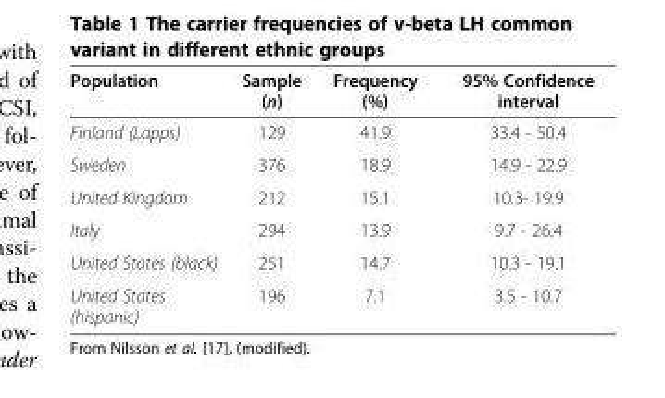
<table><thead><tr><td>Population</td><td>Sample (n)</td><td>Frequency (%)</td><td>95% Confidence interval</td></tr></thead><tbody><tr><td>Finland (Lapps)</td><td>129</td><td>41.9</td><td>33.4 - 50.4</td></tr><tr><td>Sweden</td><td>376</td><td>18.9</td><td>14.9 - 22.9</td></tr><tr><td>United Kingdom</td><td>212</td><td>15.1</td><td>10.3- 19.9</td></tr><tr><td>Italy</td><td>294</td><td>13.9</td><td>9.7 - 26.4</td></tr><tr><td>United States (black)</td><td>251</td><td>14.7</td><td>10.3 - 19.1</td></tr><tr><td>United States (hispanic)</td><td>196</td><td>7.1</td><td>3.5 - 10.7</td></tr></tbody></table>